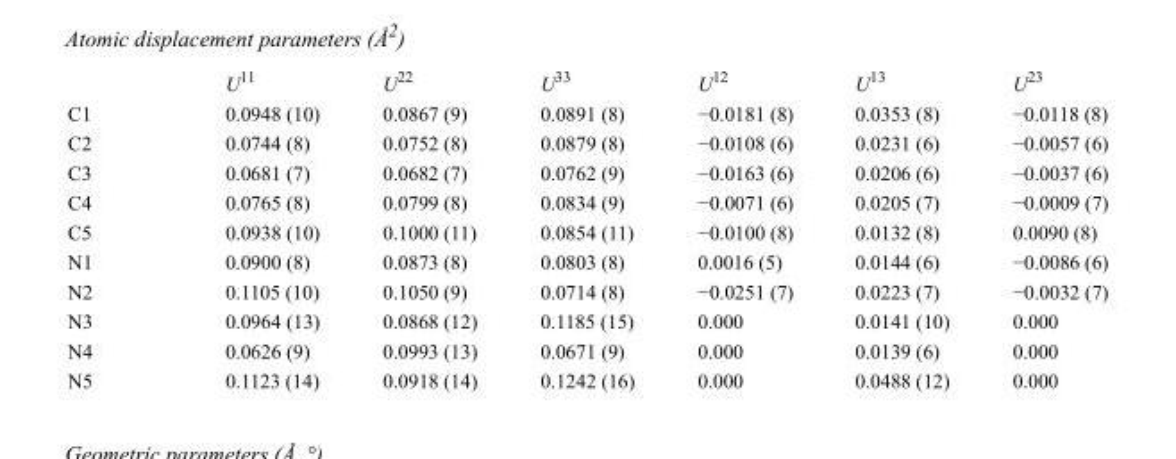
<table><thead><tr><td></td><td>U<sup>11</sup></td><td>U<sup>22</sup></td><td>U<sup>33</sup></td><td>U<sup>12</sup></td><td>U<sup>13</sup></td><td>U<sup>23</sup></td></tr></thead><tbody><tr><td>C1</td><td>0.0948 (10)</td><td>0.0867 (9)</td><td>0.0891 (8)</td><td>−0.0181 (8)</td><td>0.0353 (8)</td><td>−0.0118 (8)</td></tr><tr><td>C2</td><td>0.0744 (8)</td><td>0.0752 (8)</td><td>0.0879 (8)</td><td>−0.0108 (6)</td><td>0.0231 (6)</td><td>−0.0057 (6)</td></tr><tr><td>C3</td><td>0.0681 (7)</td><td>0.0682 (7)</td><td>0.0762 (9)</td><td>−0.0163 (6)</td><td>0.0206 (6)</td><td>−0.0037 (6)</td></tr><tr><td>C4</td><td>0.0765 (8)</td><td>0.0799 (8)</td><td>0.0834 (9)</td><td>−0.0071 (6)</td><td>0.0205 (7)</td><td>−0.0009 (7)</td></tr><tr><td>C5</td><td>0.0938 (10)</td><td>0.1000 (11)</td><td>0.0854 (11)</td><td>−0.0100 (8)</td><td>0.0132 (8)</td><td>0.0090 (8)</td></tr><tr><td>N1</td><td>0.0900 (8)</td><td>0.0873 (8)</td><td>0.0803 (8)</td><td>0.0016 (5)</td><td>0.0144 (6)</td><td>−0.0086 (6)</td></tr><tr><td>N2</td><td>0.1105 (10)</td><td>0.1050 (9)</td><td>0.0714 (8)</td><td>−0.0251 (7)</td><td>0.0223 (7)</td><td>−0.0032 (7)</td></tr><tr><td>N3</td><td>0.0964 (13)</td><td>0.0868 (12)</td><td>0.1185 (15)</td><td>0.000</td><td>0.0141 (10)</td><td>0.000</td></tr><tr><td>N4</td><td>0.0626 (9)</td><td>0.0993 (13)</td><td>0.0671 (9)</td><td>0.000</td><td>0.0139 (6)</td><td>0.000</td></tr><tr><td>N5</td><td>0.1123 (14)</td><td>0.0918 (14)</td><td>0.1242 (16)</td><td>0.000</td><td>0.0488 (12)</td><td>0.000</td></tr></tbody></table>